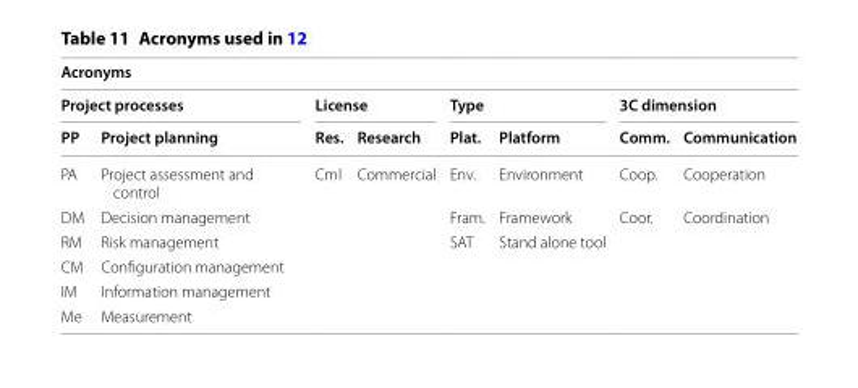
<table><thead><tr><td colspan="8">Acronyms</td></tr><tr><td colspan="2">Project processes</td><td colspan="2">License</td><td colspan="2">Type</td><td colspan="2">3C dimension</td></tr><tr><td>PP</td><td>Project planning</td><td>Res.</td><td>Research</td><td>Plat.</td><td>Platform</td><td>Comm.</td><td>Communication</td></tr></thead><tbody><tr><td>PA</td><td>Project assessment and control</td><td>Cml</td><td>Commercial</td><td>Env.</td><td>Environment</td><td>Coop.</td><td>Cooperation</td></tr><tr><td>DM</td><td>Decision management</td><td></td><td></td><td>Fram.</td><td>Framework</td><td>Coor.</td><td>Coordination</td></tr><tr><td>RM</td><td>Risk management</td><td></td><td></td><td>SAT</td><td>Stand alone tool</td><td></td><td></td></tr><tr><td>CM</td><td>Configuration management</td><td></td><td></td><td></td><td></td><td></td><td></td></tr><tr><td>IM</td><td>Information management</td><td></td><td></td><td></td><td></td><td></td><td></td></tr><tr><td>Me</td><td>Measurement</td><td></td><td></td><td></td><td></td><td></td><td></td></tr></tbody></table>